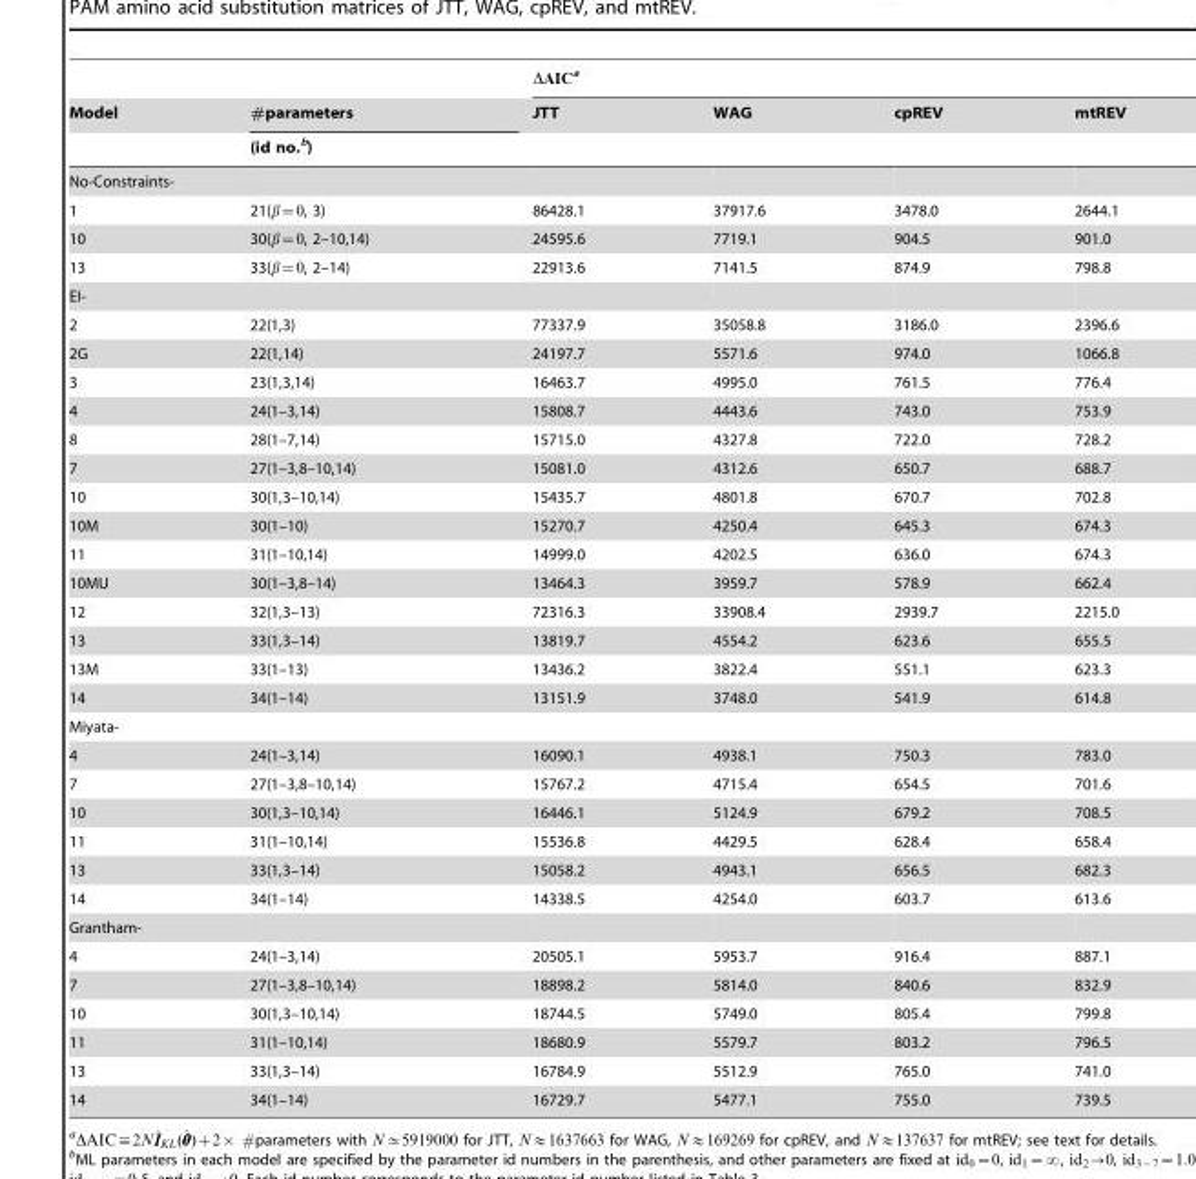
<table><thead><tr><td rowspan="3">Model</td><td rowspan="3">#parameters (id no.<sup>b</sup>)</td><td colspan="4">DAICa</td></tr><tr><td rowspan="2">JTT</td><td rowspan="2">WAG</td><td rowspan="2">cpREV</td><td rowspan="2">mtREV</td></tr><tr></tr></thead><tbody><tr><td colspan="6">No-Constraints-</td></tr><tr><td>1</td><td>21(b~0, 3)</td><td>86428.1</td><td>37917.6</td><td>3478.0</td><td>2644.1</td></tr><tr><td>10</td><td>30(b~0, 2–10,14)</td><td>24595.6</td><td>7719.1</td><td>904.5</td><td>901.0</td></tr><tr><td>13</td><td>33(b~0, 2–14)</td><td>22913.6</td><td>7141.5</td><td>874.9</td><td>798.8</td></tr><tr><td colspan="6">EI-</td></tr><tr><td>2</td><td>22(1,3)</td><td>77337.9</td><td>35058.8</td><td>3186.0</td><td>2396.6</td></tr><tr><td>2G</td><td>22(1,14)</td><td>24197.7</td><td>5571.6</td><td>974.0</td><td>1066.8</td></tr><tr><td>3</td><td>23(1,3,14)</td><td>16463.7</td><td>4995.0</td><td>761.5</td><td>776.4</td></tr><tr><td>4</td><td>24(1–3,14)</td><td>15808.7</td><td>4443.6</td><td>743.0</td><td>753.9</td></tr><tr><td>8</td><td>28(1–7,14)</td><td>15715.0</td><td>4327.8</td><td>722.0</td><td>728.2</td></tr><tr><td>7</td><td>27(1–3,8–10,14)</td><td>15081.0</td><td>4312.6</td><td>650.7</td><td>688.7</td></tr><tr><td>10</td><td>30(1,3–10,14)</td><td>15435.7</td><td>4801.8</td><td>670.7</td><td>702.8</td></tr><tr><td>10M</td><td>30(1–10)</td><td>15270.7</td><td>4250.4</td><td>645.3</td><td>674.3</td></tr><tr><td>11</td><td>31(1–10,14)</td><td>14999.0</td><td>4202.5</td><td>636.0</td><td>674.3</td></tr><tr><td>10MU</td><td>30(1–3,8–14)</td><td>13464.3</td><td>3959.7</td><td>578.9</td><td>662.4</td></tr><tr><td>12</td><td>32(1,3–13)</td><td>72316.3</td><td>33908.4</td><td>2939.7</td><td>2215.0</td></tr><tr><td>13</td><td>33(1,3–14)</td><td>13819.7</td><td>4554.2</td><td>623.6</td><td>655.5</td></tr><tr><td>13M</td><td>33(1–13)</td><td>13436.2</td><td>3822.4</td><td>551.1</td><td>623.3</td></tr><tr><td>14</td><td>34(1–14)</td><td>13151.9</td><td>3748.0</td><td>541.9</td><td>614.8</td></tr><tr><td colspan="6">Miyata-</td></tr><tr><td>4</td><td>24(1–3,14)</td><td>16090.1</td><td>4938.1</td><td>750.3</td><td>783.0</td></tr><tr><td>7</td><td>27(1–3,8–10,14)</td><td>15767.2</td><td>4715.4</td><td>654.5</td><td>701.6</td></tr><tr><td>10</td><td>30(1,3–10,14)</td><td>16446.1</td><td>5124.9</td><td>679.2</td><td>708.5</td></tr><tr><td>11</td><td>31(1–10,14)</td><td>15536.8</td><td>4429.5</td><td>628.4</td><td>658.4</td></tr><tr><td>13</td><td>33(1,3–14)</td><td>15058.2</td><td>4943.1</td><td>656.5</td><td>682.3</td></tr><tr><td>14</td><td>34(1–14)</td><td>14338.5</td><td>4254.0</td><td>603.7</td><td>613.6</td></tr><tr><td colspan="6">Grantham-</td></tr><tr><td>4</td><td>24(1–3,14)</td><td>20505.1</td><td>5953.7</td><td>916.4</td><td>887.1</td></tr><tr><td>7</td><td>27(1–3,8–10,14)</td><td>18898.2</td><td>5814.0</td><td>840.6</td><td>832.9</td></tr><tr><td>10</td><td>30(1,3–10,14)</td><td>18744.5</td><td>5749.0</td><td>805.4</td><td>799.8</td></tr><tr><td>11</td><td>31(1–10,14)</td><td>18680.9</td><td>5579.7</td><td>803.2</td><td>796.5</td></tr><tr><td>13</td><td>33(1,3–14)</td><td>16784.9</td><td>5512.9</td><td>765.0</td><td>741.0</td></tr><tr><td>14</td><td>34(1–14)</td><td>16729.7</td><td>5477.1</td><td>755.0</td><td>739.5</td></tr></tbody></table>